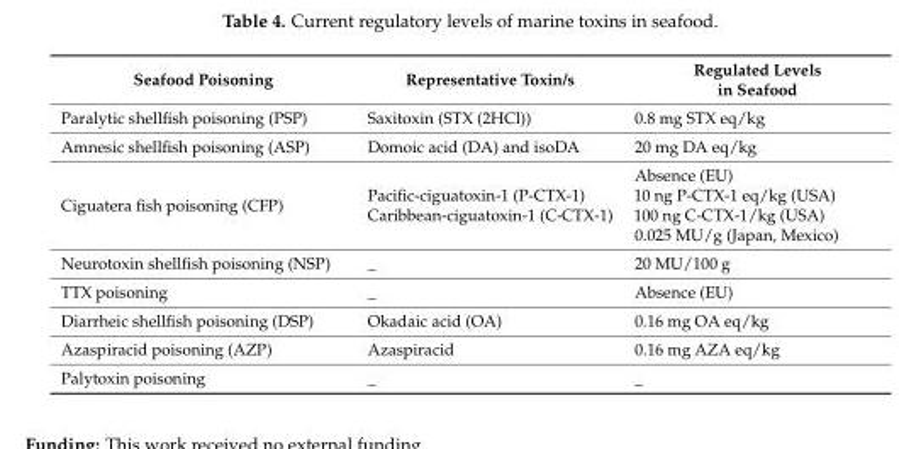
<table><thead><tr><td>Seafood Poisoning</td><td>Representative Toxin/s</td><td>Regulated Levels in Seafood</td></tr></thead><tbody><tr><td>Paralytic shellfish poisoning (PSP)</td><td>Saxitoxin (STX (2HCl))</td><td>0.8 mg STX eq/kg</td></tr><tr><td>Amnesic shellfish poisoning (ASP)</td><td>Domoic acid (DA) and isoDA</td><td>20 mg DA eq/kg</td></tr><tr><td>Ciguatera fish poisoning (CFP)</td><td>Pacific-ciguatoxin-1 (P-CTX-1) Caribbean-ciguatoxin-1 (C-CTX-1)</td><td>Absence (EU) 10 ng P-CTX-1 eq/kg (USA) 100 ng C-CTX-1/kg (USA) 0.025 MU/g (Japan, Mexico)</td></tr><tr><td>Neurotoxin shellfish poisoning (NSP)</td><td>_</td><td>20 MU/100 g</td></tr><tr><td>TTX poisoning</td><td>_</td><td>Absence (EU)</td></tr><tr><td>Diarrheic shellfish poisoning (DSP)</td><td>Okadaic acid (OA)</td><td>0.16 mg OA eq/kg</td></tr><tr><td>Azaspiracid poisoning (AZP)</td><td>Azaspiracid</td><td>0.16 mg AZA eq/kg</td></tr><tr><td>Palytoxin poisoning</td><td>_</td><td>_</td></tr></tbody></table>